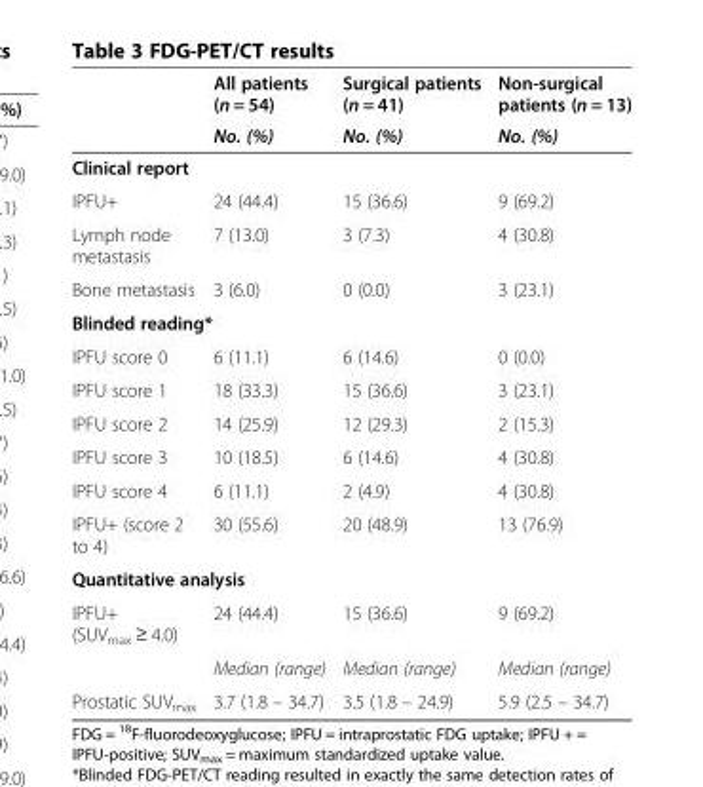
<table><thead><tr><td rowspan="2"></td><td rowspan="2">All patients (n = 54) No. (%)</td><td rowspan="2">Surgical patients (n = 41) No. (%)</td><td rowspan="2">Non-surgical patients (n = 13) No. (%)</td></tr><tr></tr></thead><tbody><tr><td colspan="4">Clinical report</td></tr><tr><td>IPFU+</td><td>24 (44.4)</td><td>15 (36.6)</td><td>9 (69.2)</td></tr><tr><td>Lymph node metastasis</td><td>7 (13.0)</td><td>3 (7.3)</td><td>4 (30.8)</td></tr><tr><td>Bone metastasis</td><td>3 (6.0)</td><td>0 (0.0)</td><td>3 (23.1)</td></tr><tr><td colspan="4">Blinded reading*</td></tr><tr><td>IPFU score 0</td><td>6 (11.1)</td><td>6 (14.6)</td><td>0 (0.0)</td></tr><tr><td>IPFU score 1</td><td>18 (33.3)</td><td>15 (36.6)</td><td>3 (23.1)</td></tr><tr><td>IPFU score 2</td><td>14 (25.9)</td><td>12 (29.3)</td><td>2 (15.3)</td></tr><tr><td>IPFU score 3</td><td>10 (18.5)</td><td>6 (14.6)</td><td>4 (30.8)</td></tr><tr><td>IPFU score 4</td><td>6 (11.1)</td><td>2 (4.9)</td><td>4 (30.8)</td></tr><tr><td>IPFU+ (score 2 to 4)</td><td>30 (55.6)</td><td>20 (48.9)</td><td>13 (76.9)</td></tr><tr><td colspan="4">Quantitative analysis</td></tr><tr><td rowspan="2">IPFU+ (SUV<sub>max</sub> ≥ 4.0)</td><td>24 (44.4)</td><td>15 (36.6)</td><td>9 (69.2)</td></tr><tr><td>Median (range)</td><td>Median (range)</td><td>Median (range)</td></tr><tr><td>Prostatic SUV<sub>max</sub></td><td>3.7 (1.8 – 34.7)</td><td>3.5 (1.8 – 24.9)</td><td>5.9 (2.5 – 34.7)</td></tr></tbody></table>